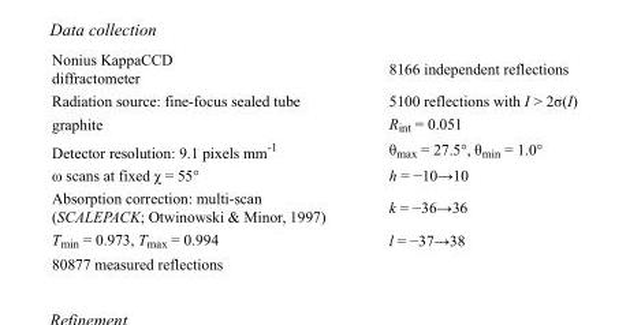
<table><tbody><tr><td>Nonius KappaCCD diffractometer</td><td>8166 independent reflections</td></tr><tr><td>Radiation source: fine-focus sealed tube</td><td>5100 reflections with I &gt; 2σ(I)</td></tr><tr><td>graphite</td><td>R<sub>int</sub> = 0.051</td></tr><tr><td>Detector resolution: 9.1 pixels mm<sup>-1</sup></td><td>θ<sub>max</sub> = 27.5°, θ<sub>min</sub> = 1.0°</td></tr><tr><td>ω scans at fixed χ = 55°</td><td>h = −10→10</td></tr><tr><td>Absorption correction: multi-scan (SCALEPACK; Otwinowski &amp; Minor, 1997)</td><td>k = −36→36</td></tr><tr><td>T<sub>min</sub> = 0.973, T<sub>max</sub> = 0.994</td><td>l = −37→38</td></tr><tr><td>80877 measured reflections</td><td></td></tr></tbody></table>